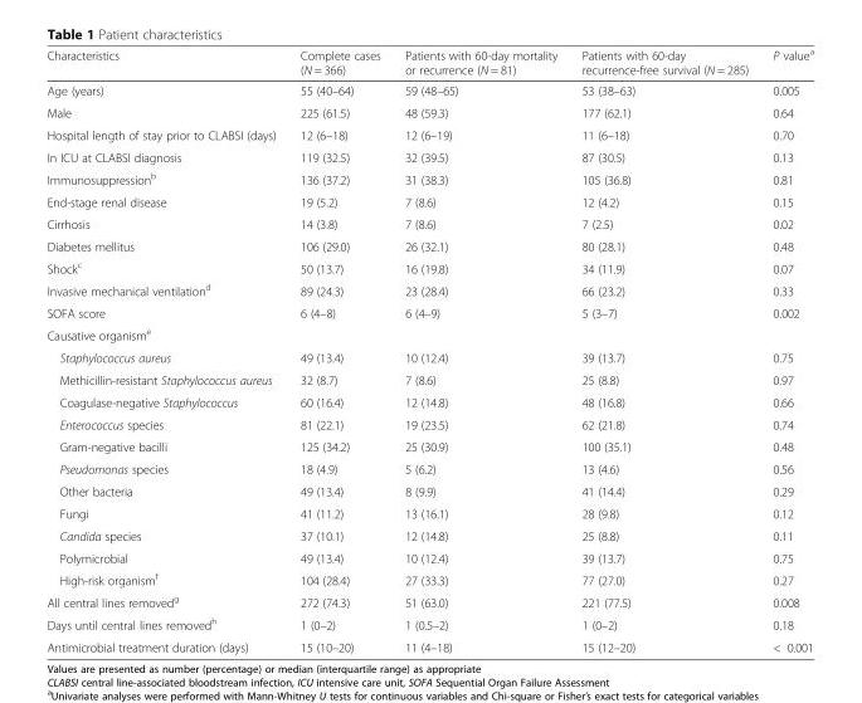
<table><thead><tr><td>Characteristics</td><td>Complete cases (N = 366)</td><td>Patients with 60-day mortality or recurrence (N = 81)</td><td>Patients with 60-day recurrence-free survival (N = 285)</td><td>P value<sup>a</sup></td></tr></thead><tbody><tr><td>Age (years)</td><td>55 (40–64)</td><td>59 (48–65)</td><td>53 (38–63)</td><td>0.005</td></tr><tr><td>Male</td><td>225 (61.5)</td><td>48 (59.3)</td><td>177 (62.1)</td><td>0.64</td></tr><tr><td>Hospital length of stay prior to CLABSI (days)</td><td>12 (6–18)</td><td>12 (6–19)</td><td>11 (6–18)</td><td>0.70</td></tr><tr><td>In ICU at CLABSI diagnosis</td><td>119 (32.5)</td><td>32 (39.5)</td><td>87 (30.5)</td><td>0.13</td></tr><tr><td>Immunosuppression<sup>b</sup></td><td>136 (37.2)</td><td>31 (38.3)</td><td>105 (36.8)</td><td>0.81</td></tr><tr><td>End-stage renal disease</td><td>19 (5.2)</td><td>7 (8.6)</td><td>12 (4.2)</td><td>0.15</td></tr><tr><td>Cirrhosis</td><td>14 (3.8)</td><td>7 (8.6)</td><td>7 (2.5)</td><td>0.02</td></tr><tr><td>Diabetes mellitus</td><td>106 (29.0)</td><td>26 (32.1)</td><td>80 (28.1)</td><td>0.48</td></tr><tr><td>Shock<sup>c</sup></td><td>50 (13.7)</td><td>16 (19.8)</td><td>34 (11.9)</td><td>0.07</td></tr><tr><td>Invasive mechanical ventilation<sup>d</sup></td><td>89 (24.3)</td><td>23 (28.4)</td><td>66 (23.2)</td><td>0.33</td></tr><tr><td>SOFA score</td><td>6 (4–8)</td><td>6 (4–9)</td><td>5 (3–7)</td><td>0.002</td></tr><tr><td colspan="5">Causative organism<sup>e</sup></td></tr><tr><td>Staphylococcus aureus</td><td>49 (13.4)</td><td>10 (12.4)</td><td>39 (13.7)</td><td>0.75</td></tr><tr><td>Methicillin-resistant Staphylococcus aureus</td><td>32 (8.7)</td><td>7 (8.6)</td><td>25 (8.8)</td><td>0.97</td></tr><tr><td>Coagulase-negative Staphylococcus</td><td>60 (16.4)</td><td>12 (14.8)</td><td>48 (16.8)</td><td>0.66</td></tr><tr><td>Enterococcus species</td><td>81 (22.1)</td><td>19 (23.5)</td><td>62 (21.8)</td><td>0.74</td></tr><tr><td>Gram-negative bacilli</td><td>125 (34.2)</td><td>25 (30.9)</td><td>100 (35.1)</td><td>0.48</td></tr><tr><td>Pseudomonas species</td><td>18 (4.9)</td><td>5 (6.2)</td><td>13 (4.6)</td><td>0.56</td></tr><tr><td>Other bacteria</td><td>49 (13.4)</td><td>8 (9.9)</td><td>41 (14.4)</td><td>0.29</td></tr><tr><td>Fungi</td><td>41 (11.2)</td><td>13 (16.1)</td><td>28 (9.8)</td><td>0.12</td></tr><tr><td>Candida species</td><td>37 (10.1)</td><td>12 (14.8)</td><td>25 (8.8)</td><td>0.11</td></tr><tr><td>Polymicrobial</td><td>49 (13.4)</td><td>10 (12.4)</td><td>39 (13.7)</td><td>0.75</td></tr><tr><td>High-risk organism<sup>f</sup></td><td>104 (28.4)</td><td>27 (33.3)</td><td>77 (27.0)</td><td>0.27</td></tr><tr><td>All central lines removed<sup>g</sup></td><td>272 (74.3)</td><td>51 (63.0)</td><td>221 (77.5)</td><td>0.008</td></tr><tr><td>Days until central lines removed<sup>h</sup></td><td>1 (0–2)</td><td>1 (0.5–2)</td><td>1 (0–2)</td><td>0.18</td></tr><tr><td>Antimicrobial treatment duration (days)</td><td>15 (10–20)</td><td>11 (4–18)</td><td>15 (12–20)</td><td>&lt; 0.001</td></tr></tbody></table>